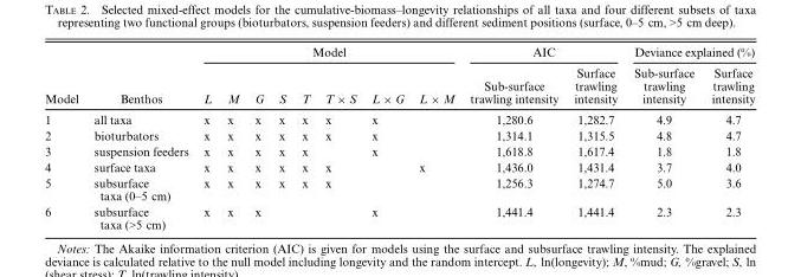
<table><thead><tr><td rowspan="2">Model</td><td rowspan="2">Benthos</td><td colspan="8">Model</td><td colspan="2">AIC</td><td colspan="2">Deviance explained (%)</td></tr><tr><td>L</td><td>M</td><td>G</td><td>S</td><td>T</td><td>T × S</td><td>L × G</td><td>L × M</td><td>Sub-surface trawling intensity</td><td>Surface trawling intensity</td><td>Sub-surface trawling intensity</td><td>Surface trawling intensity</td></tr></thead><tbody><tr><td>1</td><td>all taxa</td><td>x</td><td>x</td><td>x</td><td>x</td><td>x</td><td>x</td><td>x</td><td></td><td>1,280.6</td><td>1,282.7</td><td>4.9</td><td>4.7</td></tr><tr><td>2</td><td>bioturbators</td><td>x</td><td>x</td><td>x</td><td>x</td><td>x</td><td>x</td><td>x</td><td></td><td>1,314.1</td><td>1,315.5</td><td>4.8</td><td>4.7</td></tr><tr><td>3</td><td>suspension feeders</td><td>x</td><td>x</td><td>x</td><td>x</td><td>x</td><td></td><td>x</td><td></td><td>1,618.8</td><td>1,617.4</td><td>1.8</td><td>1.8</td></tr><tr><td>4</td><td>surface taxa</td><td>x</td><td>x</td><td>x</td><td>x</td><td>x</td><td>x</td><td></td><td>x</td><td>1,436.0</td><td>1,431.4</td><td>3.7</td><td>4.0</td></tr><tr><td>5</td><td>subsurface taxa (0–5 cm)</td><td>x</td><td>x</td><td>x</td><td>x</td><td>x</td><td>x</td><td></td><td></td><td>1,256.3</td><td>1,274.7</td><td>5.0</td><td>3.6</td></tr><tr><td>6</td><td>subsurface taxa (&gt;5 cm)</td><td>x</td><td>x</td><td>x</td><td></td><td></td><td></td><td>x</td><td></td><td>1,441.4</td><td>1,441.4</td><td>2.3</td><td>2.3</td></tr></tbody></table>